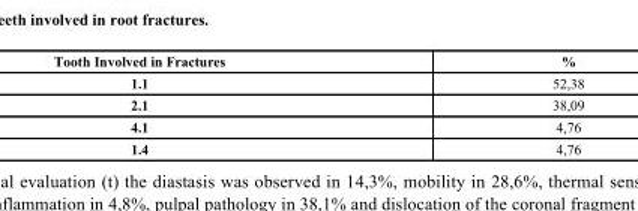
<table><thead><tr><td>Tooth Involved in Fractures</td><td>%</td></tr></thead><tbody><tr><td>1.1</td><td>52,38</td></tr><tr><td>2.1</td><td>38,09</td></tr><tr><td>4.1</td><td>4,76</td></tr><tr><td>1.4</td><td>4,76</td></tr></tbody></table>